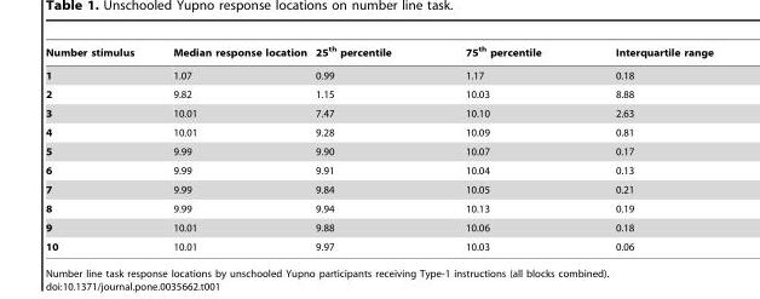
<table><thead><tr><td>Number stimulus</td><td>Median response location</td><td>25<sup>th</sup> percentile</td><td>75<sup>th</sup> percentile</td><td>Interquartile range</td></tr></thead><tbody><tr><td>1</td><td>1.07</td><td>0.99</td><td>1.17</td><td>0.18</td></tr><tr><td>2</td><td>9.82</td><td>1.15</td><td>10.03</td><td>8.88</td></tr><tr><td>3</td><td>10.01</td><td>7.47</td><td>10.10</td><td>2.63</td></tr><tr><td>4</td><td>10.01</td><td>9.28</td><td>10.09</td><td>0.81</td></tr><tr><td>5</td><td>9.99</td><td>9.90</td><td>10.07</td><td>0.17</td></tr><tr><td>6</td><td>9.99</td><td>9.91</td><td>10.04</td><td>0.13</td></tr><tr><td>7</td><td>9.99</td><td>9.84</td><td>10.05</td><td>0.21</td></tr><tr><td>8</td><td>9.99</td><td>9.94</td><td>10.13</td><td>0.19</td></tr><tr><td>9</td><td>10.01</td><td>9.88</td><td>10.06</td><td>0.18</td></tr><tr><td>10</td><td>10.01</td><td>9.97</td><td>10.03</td><td>0.06</td></tr></tbody></table>